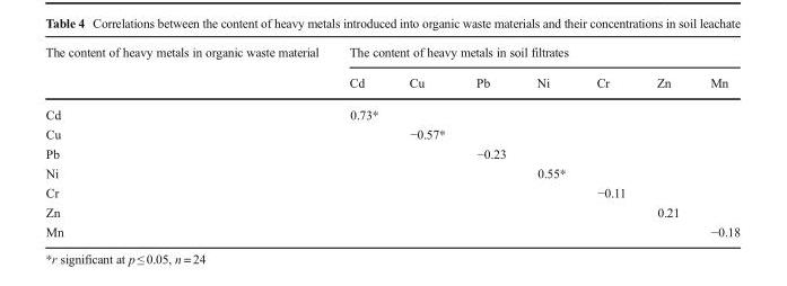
<table><thead><tr><td rowspan="2">The content of heavy metals in organic waste material</td><td colspan="7">The content of heavy metals in soil filtrates</td></tr><tr><td>Cd</td><td>Cu</td><td>Pb</td><td>Ni</td><td>Cr</td><td>Zn</td><td>Mn</td></tr></thead><tbody><tr><td>Cd</td><td>0.73*</td><td></td><td></td><td></td><td></td><td></td><td></td></tr><tr><td>Cu</td><td></td><td>−0.57*</td><td></td><td></td><td></td><td></td><td></td></tr><tr><td>Pb</td><td></td><td></td><td>−0.23</td><td></td><td></td><td></td><td></td></tr><tr><td>Ni</td><td></td><td></td><td></td><td>0.55*</td><td></td><td></td><td></td></tr><tr><td>Cr</td><td></td><td></td><td></td><td></td><td>−0.11</td><td></td><td></td></tr><tr><td>Zn</td><td></td><td></td><td></td><td></td><td></td><td>0.21</td><td></td></tr><tr><td>Mn</td><td></td><td></td><td></td><td></td><td></td><td></td><td>−0.18</td></tr></tbody></table>